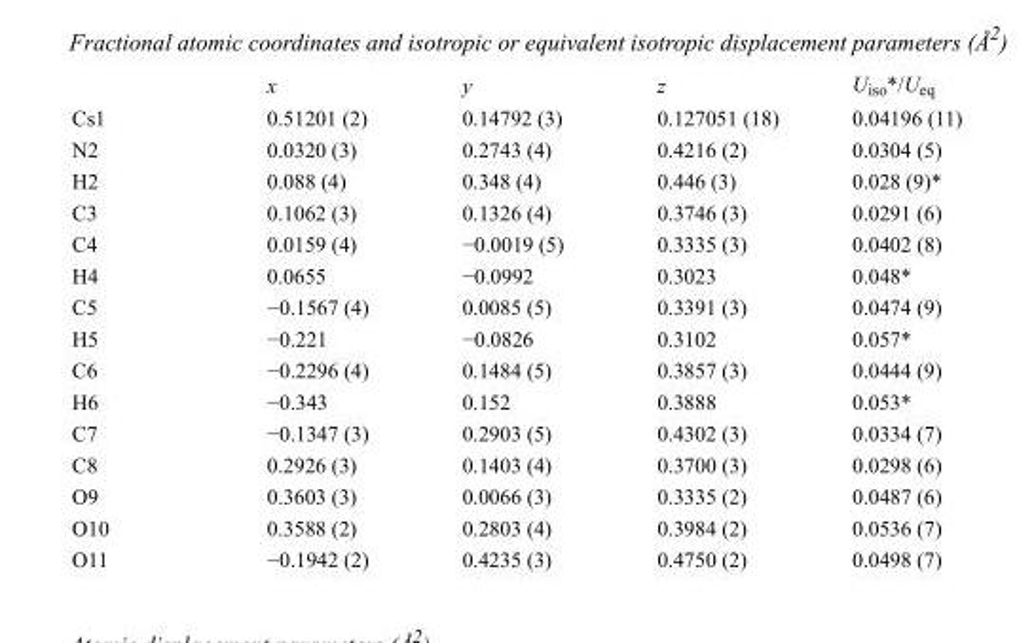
<table><thead><tr><td></td><td>x</td><td>y</td><td>z</td><td>U<sub>iso</sub>*/U<sub>eq</sub></td></tr></thead><tbody><tr><td>Cs1</td><td>0.51201 (2)</td><td>0.14792 (3)</td><td>0.127051 (18)</td><td>0.04196 (11)</td></tr><tr><td>N2</td><td>0.0320 (3)</td><td>0.2743 (4)</td><td>0.4216 (2)</td><td>0.0304 (5)</td></tr><tr><td>H2</td><td>0.088 (4)</td><td>0.348 (4)</td><td>0.446 (3)</td><td>0.028 (9)*</td></tr><tr><td>C3</td><td>0.1062 (3)</td><td>0.1326 (4)</td><td>0.3746 (3)</td><td>0.0291 (6)</td></tr><tr><td>C4</td><td>0.0159 (4)</td><td>−0.0019 (5)</td><td>0.3335 (3)</td><td>0.0402 (8)</td></tr><tr><td>H4</td><td>0.0655</td><td>−0.0992</td><td>0.3023</td><td>0.048*</td></tr><tr><td>C5</td><td>−0.1567 (4)</td><td>0.0085 (5)</td><td>0.3391 (3)</td><td>0.0474 (9)</td></tr><tr><td>H5</td><td>−0.221</td><td>−0.0826</td><td>0.3102</td><td>0.057*</td></tr><tr><td>C6</td><td>−0.2296 (4)</td><td>0.1484 (5)</td><td>0.3857 (3)</td><td>0.0444 (9)</td></tr><tr><td>H6</td><td>−0.343</td><td>0.152</td><td>0.3888</td><td>0.053*</td></tr><tr><td>C7</td><td>−0.1347 (3)</td><td>0.2903 (5)</td><td>0.4302 (3)</td><td>0.0334 (7)</td></tr><tr><td>C8</td><td>0.2926 (3)</td><td>0.1403 (4)</td><td>0.3700 (3)</td><td>0.0298 (6)</td></tr><tr><td>O9</td><td>0.3603 (3)</td><td>0.0066 (3)</td><td>0.3335 (2)</td><td>0.0487 (6)</td></tr><tr><td>O10</td><td>0.3588 (2)</td><td>0.2803 (4)</td><td>0.3984 (2)</td><td>0.0536 (7)</td></tr><tr><td>O11</td><td>−0.1942 (2)</td><td>0.4235 (3)</td><td>0.4750 (2)</td><td>0.0498 (7)</td></tr></tbody></table>